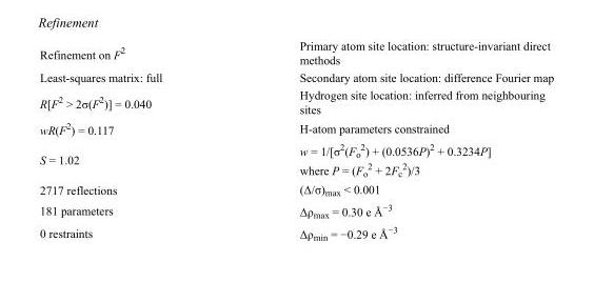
<table><tbody><tr><td>Refinement on F<sup>2</sup></td><td>Primary atom site location: structure-invariant direct methods</td></tr><tr><td>Least-squares matrix: full</td><td>Secondary atom site location: difference Fourier map</td></tr><tr><td>R[F<sup>2</sup> &gt; 2σ(F<sup>2</sup>)] = 0.040</td><td>Hydrogen site location: inferred from neighbouring sites</td></tr><tr><td>wR(F<sup>2</sup>) = 0.117</td><td>H-atom parameters constrained</td></tr><tr><td>S = 1.02</td><td>w = 1/[σ<sup>2</sup>(F<sub>o</sub> <sup>2</sup>) + (0.0536P)<sup>2</sup> + 0.3234P] where P = (F<sub>o</sub> <sup>2</sup> + 2F<sub>c</sub> <sup>2</sup>)/3</td></tr><tr><td>2717 reflections</td><td>(Δ/σ)<sub>max</sub> &lt; 0.001</td></tr><tr><td>181 parameters</td><td>Δρ<sub>max</sub> = 0.30 e Å<sup>−3</sup></td></tr><tr><td>0 restraints</td><td>Δρ<sub>min</sub> = −0.29 e Å<sup>−3</sup></td></tr></tbody></table>